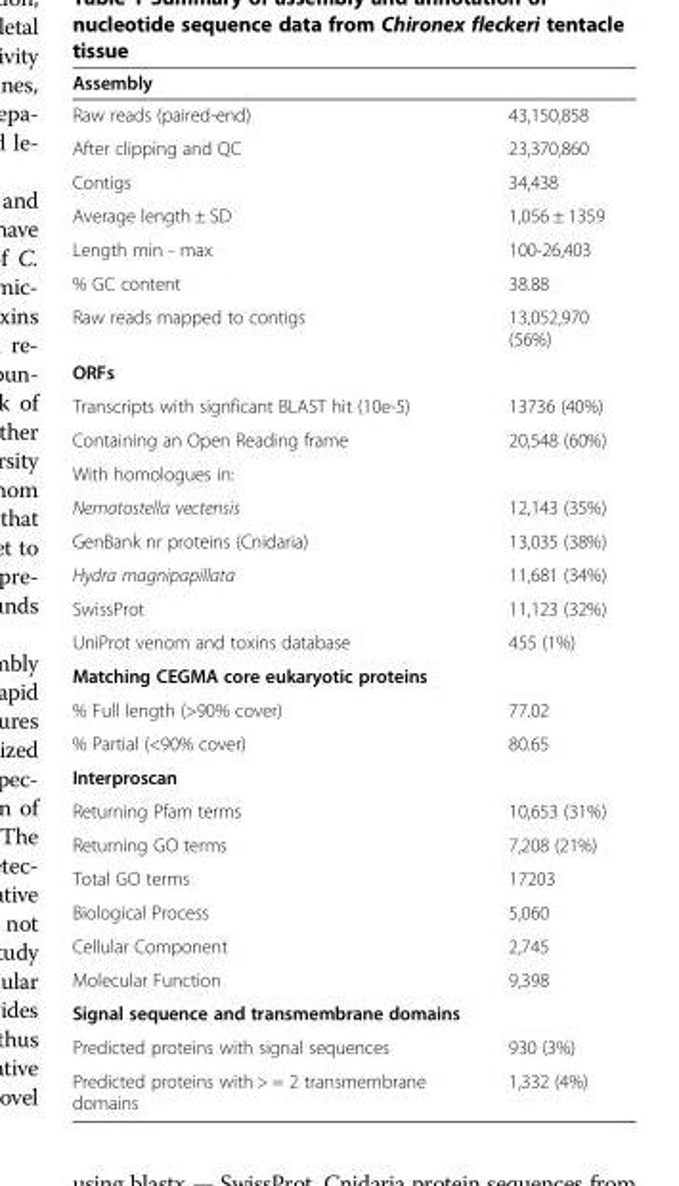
<table><thead><tr><td>Assembly</td><td></td></tr></thead><tbody><tr><td>Raw reads (paired-end)</td><td>43,150,858</td></tr><tr><td>After clipping and QC</td><td>23,370,860</td></tr><tr><td>Contigs</td><td>34,438</td></tr><tr><td>Average length ± SD</td><td>1,056 ± 1359</td></tr><tr><td>Length min - max</td><td>100-26,403</td></tr><tr><td>% GC content</td><td>38.88</td></tr><tr><td>Raw reads mapped to contigs</td><td>13,052,970 (56%)</td></tr><tr><td colspan="2">ORFs</td></tr><tr><td>Transcripts with signficant BLAST hit (10e-5)</td><td>13736 (40%)</td></tr><tr><td>Containing an Open Reading frame</td><td>20,548 (60%)</td></tr><tr><td colspan="2">With homologues in:</td></tr><tr><td>Nematostella vectensis</td><td>12,143 (35%)</td></tr><tr><td>GenBank nr proteins (Cnidaria)</td><td>13,035 (38%)</td></tr><tr><td>Hydra magnipapillata</td><td>11,681 (34%)</td></tr><tr><td>SwissProt</td><td>11,123 (32%)</td></tr><tr><td>UniProt venom and toxins database</td><td>455 (1%)</td></tr><tr><td colspan="2">Matching CEGMA core eukaryotic proteins</td></tr><tr><td>% Full length (&gt;90% cover)</td><td>77.02</td></tr><tr><td>% Partial (&lt;90% cover)</td><td>80.65</td></tr><tr><td colspan="2">Interproscan</td></tr><tr><td>Returning Pfam terms</td><td>10,653 (31%)</td></tr><tr><td>Returning GO terms</td><td>7,208 (21%)</td></tr><tr><td>Total GO terms</td><td>17203</td></tr><tr><td>Biological Process</td><td>5,060</td></tr><tr><td>Cellular Component</td><td>2,745</td></tr><tr><td>Molecular Function</td><td>9,398</td></tr><tr><td colspan="2">Signal sequence and transmembrane domains</td></tr><tr><td>Predicted proteins with signal sequences</td><td>930 (3%)</td></tr><tr><td>Predicted proteins with &gt; = 2 transmembrane domains</td><td>1,332 (4%)</td></tr></tbody></table>